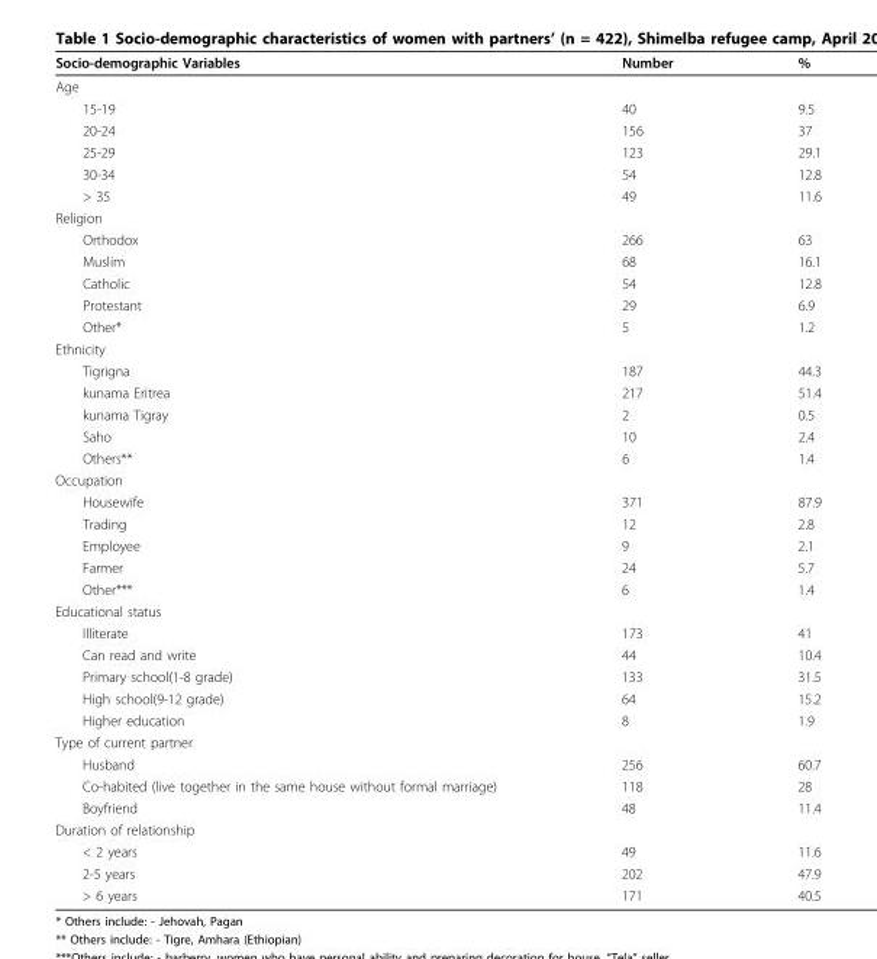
<table><thead><tr><td>Socio-demographic Variables</td><td>Number</td><td>%</td></tr></thead><tbody><tr><td colspan="3">Age</td></tr><tr><td>15-19</td><td>40</td><td>9.5</td></tr><tr><td>20-24</td><td>156</td><td>37</td></tr><tr><td>25-29</td><td>123</td><td>29.1</td></tr><tr><td>30-34</td><td>54</td><td>12.8</td></tr><tr><td>&gt; 35</td><td>49</td><td>11.6</td></tr><tr><td colspan="3">Religion</td></tr><tr><td>Orthodox</td><td>266</td><td>63</td></tr><tr><td>Muslim</td><td>68</td><td>16.1</td></tr><tr><td>Catholic</td><td>54</td><td>12.8</td></tr><tr><td>Protestant</td><td>29</td><td>6.9</td></tr><tr><td>Other*</td><td>5</td><td>1.2</td></tr><tr><td colspan="3">Ethnicity</td></tr><tr><td>Tigrigna</td><td>187</td><td>44.3</td></tr><tr><td>kunama Eritrea</td><td>217</td><td>51.4</td></tr><tr><td>kunama Tigray</td><td>2</td><td>0.5</td></tr><tr><td>Saho</td><td>10</td><td>2.4</td></tr><tr><td>Others**</td><td>6</td><td>1.4</td></tr><tr><td colspan="3">Occupation</td></tr><tr><td>Housewife</td><td>371</td><td>87.9</td></tr><tr><td>Trading</td><td>12</td><td>2.8</td></tr><tr><td>Employee</td><td>9</td><td>2.1</td></tr><tr><td>Farmer</td><td>24</td><td>5.7</td></tr><tr><td>Other***</td><td>6</td><td>1.4</td></tr><tr><td colspan="3">Educational status</td></tr><tr><td>Illiterate</td><td>173</td><td>41</td></tr><tr><td>Can read and write</td><td>44</td><td>10.4</td></tr><tr><td>Primary school(1-8 grade)</td><td>133</td><td>31.5</td></tr><tr><td>High school(9-12 grade)</td><td>64</td><td>15.2</td></tr><tr><td>Higher education</td><td>8</td><td>1.9</td></tr><tr><td colspan="3">Type of current partner</td></tr><tr><td>Husband</td><td>256</td><td>60.7</td></tr><tr><td>Co-habited (live together in the same house without formal marriage)</td><td>118</td><td>28</td></tr><tr><td>Boyfriend</td><td>48</td><td>11.4</td></tr><tr><td colspan="3">Duration of relationship</td></tr><tr><td>&lt; 2 years</td><td>49</td><td>11.6</td></tr><tr><td>2-5 years</td><td>202</td><td>47.9</td></tr><tr><td>&gt; 6 years</td><td>171</td><td>40.5</td></tr></tbody></table>